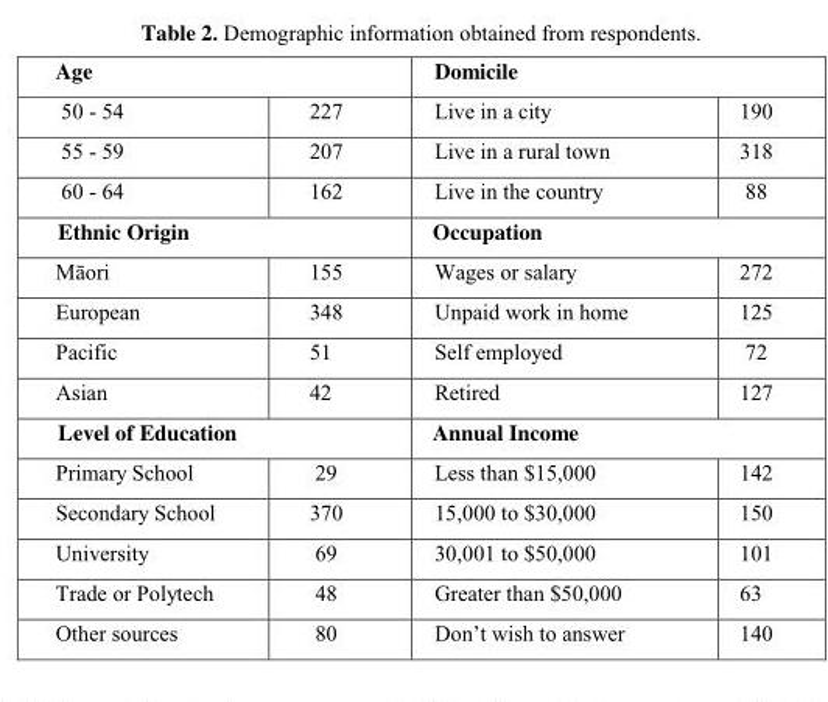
<table><tbody><tr><td colspan="2">Age</td><td colspan="2">Domicile</td></tr><tr><td>50 - 54</td><td>227</td><td>Live in a city</td><td>190</td></tr><tr><td>55 - 59</td><td>207</td><td>Live in a rural town</td><td>318</td></tr><tr><td>60 - 64</td><td>162</td><td>Live in the country</td><td>88</td></tr><tr><td colspan="2">Ethnic Origin</td><td colspan="2">Occupation</td></tr><tr><td>Māori</td><td>155</td><td>Wages or salary</td><td>272</td></tr><tr><td>European</td><td>348</td><td>Unpaid work in home</td><td>125</td></tr><tr><td>Pacific</td><td>51</td><td>Self employed</td><td>72</td></tr><tr><td>Asian</td><td>42</td><td>Retired</td><td>127</td></tr><tr><td colspan="2">Level of Education</td><td colspan="2">Annual Income</td></tr><tr><td>Primary School</td><td>29</td><td>Less than $15,000</td><td>142</td></tr><tr><td>Secondary School</td><td>370</td><td>15,000 to $30,000</td><td>150</td></tr><tr><td>University</td><td>69</td><td>30,001 to $50,000</td><td>101</td></tr><tr><td>Trade or Polytech</td><td>48</td><td>Greater than $50,000</td><td>63</td></tr><tr><td>Other sources</td><td>80</td><td>Don‟t wish to answer</td><td>140</td></tr></tbody></table>